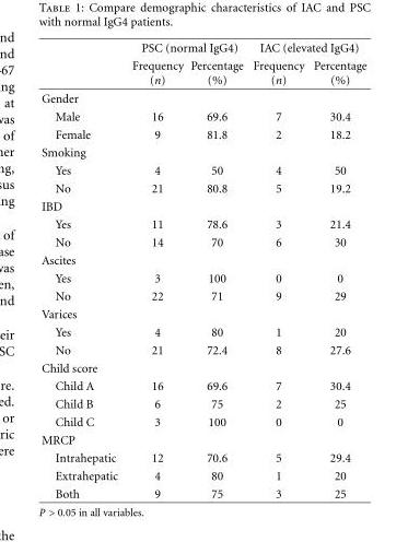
<table><thead><tr><td rowspan="2"></td><td colspan="2">PSC (normal IgG4)</td><td colspan="2">IAC (elevated IgG4)</td></tr><tr><td>Frequency (n)</td><td>Percentage (%)</td><td>Frequency (n)</td><td>Percentage (%)</td></tr></thead><tbody><tr><td colspan="5">Gender</td></tr><tr><td>Male</td><td>16</td><td>69.6</td><td>7</td><td>30.4</td></tr><tr><td>Female</td><td>9</td><td>81.8</td><td>2</td><td>18.2</td></tr><tr><td colspan="5">Smoking</td></tr><tr><td>Yes</td><td>4</td><td>50</td><td>4</td><td>50</td></tr><tr><td>No</td><td>21</td><td>80.8</td><td>5</td><td>19.2</td></tr><tr><td colspan="5">IBD</td></tr><tr><td>Yes</td><td>11</td><td>78.6</td><td>3</td><td>21.4</td></tr><tr><td>No</td><td>14</td><td>70</td><td>6</td><td>30</td></tr><tr><td colspan="5">Ascites</td></tr><tr><td>Yes</td><td>3</td><td>100</td><td>0</td><td>0</td></tr><tr><td>No</td><td>22</td><td>71</td><td>9</td><td>29</td></tr><tr><td colspan="5">Varices</td></tr><tr><td>Yes</td><td>4</td><td>80</td><td>1</td><td>20</td></tr><tr><td>No</td><td>21</td><td>72.4</td><td>8</td><td>27.6</td></tr><tr><td colspan="5">Child score</td></tr><tr><td>Child A</td><td>16</td><td>69.6</td><td>7</td><td>30.4</td></tr><tr><td>Child B</td><td>6</td><td>75</td><td>2</td><td>25</td></tr><tr><td>Child C</td><td>3</td><td>100</td><td>0</td><td>0</td></tr><tr><td colspan="5">MRCP</td></tr><tr><td>Intrahepatic</td><td>12</td><td>70.6</td><td>5</td><td>29.4</td></tr><tr><td>Extrahepatic</td><td>4</td><td>80</td><td>1</td><td>20</td></tr><tr><td>Both</td><td>9</td><td>75</td><td>3</td><td>25</td></tr></tbody></table>